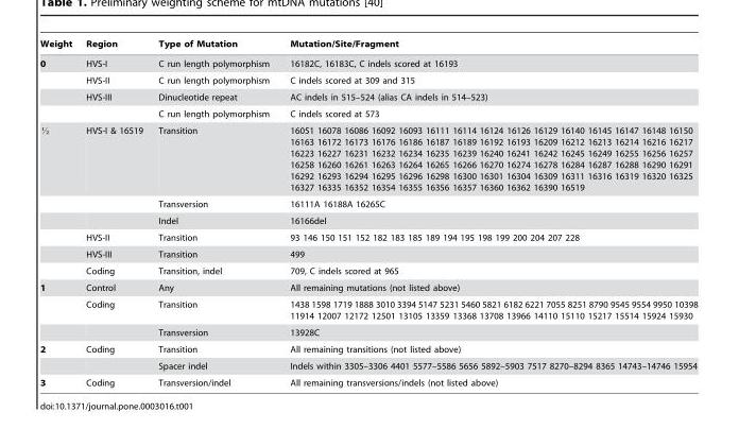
<table><thead><tr><td>Weight</td><td>Region</td><td>Type of Mutation</td><td>Mutation/Site/Fragment</td></tr></thead><tbody><tr><td rowspan="4">0</td><td>HVS-I</td><td>C run length polymorphism</td><td>16182C, 16183C, C indels scored at 16193</td></tr><tr><td>HVS-II</td><td>C run length polymorphism</td><td>C indels scored at 309 and 315</td></tr><tr><td>HVS-III</td><td>Dinucleotide repeat</td><td>AC indels in 515–524 (alias CA indels in 514–523)</td></tr><tr><td></td><td>C run length polymorphism</td><td>C indels scored at 573</td></tr><tr><td rowspan="6">K</td><td>HVS-I &amp; 16519</td><td>Transition</td><td>16051 16078 16086 16092 16093 16111 16114 16124 16126 16129 16140 16145 16147 16148 16150 16163 16172 16173 16176 16186 16187 16189 16192 16193 16209 16212 16213 16214 16216 16217 16223 16227 16231 16232 16234 16235 16239 16240 16241 16242 16245 16249 16255 16256 16257 16258 16260 16261 16263 16264 16265 16266 16270 16274 16278 16284 16287 16288 16290 16291 16292 16293 16294 16295 16296 16298 16300 16301 16304 16309 16311 16316 16319 16320 16325 16327 16335 16352 16354 16355 16356 16357 16360 16362 16390 16519</td></tr><tr><td></td><td>Transversion</td><td>16111A 16188A 16265C</td></tr><tr><td></td><td>Indel</td><td>16166del</td></tr><tr><td>HVS-II</td><td>Transition</td><td>93 146 150 151 152 182 183 185 189 194 195 198 199 200 204 207 228</td></tr><tr><td>HVS-III</td><td>Transition</td><td>499</td></tr><tr><td>Coding</td><td>Transition, indel</td><td>709, C indels scored at 965</td></tr><tr><td rowspan="3">1</td><td>Control</td><td>Any</td><td>All remaining mutations (not listed above)</td></tr><tr><td>Coding</td><td>Transition</td><td>1438 1598 1719 1888 3010 3394 5147 5231 5460 5821 6182 6221 7055 8251 8790 9545 9554 9950 10398 11914 12007 12172 12501 13105 13359 13368 13708 13966 14110 15110 15217 15514 15924 15930</td></tr><tr><td></td><td>Transversion</td><td>13928C</td></tr><tr><td rowspan="2">2</td><td>Coding</td><td>Transition</td><td>All remaining transitions (not listed above)</td></tr><tr><td></td><td>Spacer indel</td><td>Indels within 3305–3306 4401 5577–5586 5656 5892–5903 7517 8270–8294 8365 14743–14746 15954</td></tr><tr><td>3</td><td>Coding</td><td>Transversion/indel</td><td>All remaining transversions/indels (not listed above)</td></tr></tbody></table>